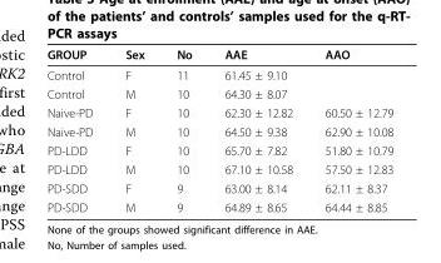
<table><thead><tr><td>GROUP</td><td>Sex</td><td>No</td><td>AAE</td><td>AAO</td></tr></thead><tbody><tr><td>Control</td><td>F</td><td>11</td><td>61.45 ± 9.10</td><td></td></tr><tr><td>Control</td><td>M</td><td>10</td><td>64.30 ± 8.07</td><td></td></tr><tr><td>Naive-PD</td><td>F</td><td>10</td><td>62.30 ± 12.82</td><td>60.50 ± 12.79</td></tr><tr><td>Naive-PD</td><td>M</td><td>10</td><td>64.50 ± 9.38</td><td>62.90 ± 10.08</td></tr><tr><td>PD-LDD</td><td>F</td><td>10</td><td>65.70 ± 7.82</td><td>51.80 ± 10.79</td></tr><tr><td>PD-LDD</td><td>M</td><td>10</td><td>67.10 ± 10.58</td><td>57.50 ± 12.83</td></tr><tr><td>PD-SDD</td><td>F</td><td>9</td><td>63.00 ± 8.14</td><td>62.11 ± 8.37</td></tr><tr><td>PD-SDD</td><td>M</td><td>9</td><td>64.89 ± 8.65</td><td>64.44 ± 8.85</td></tr></tbody></table>